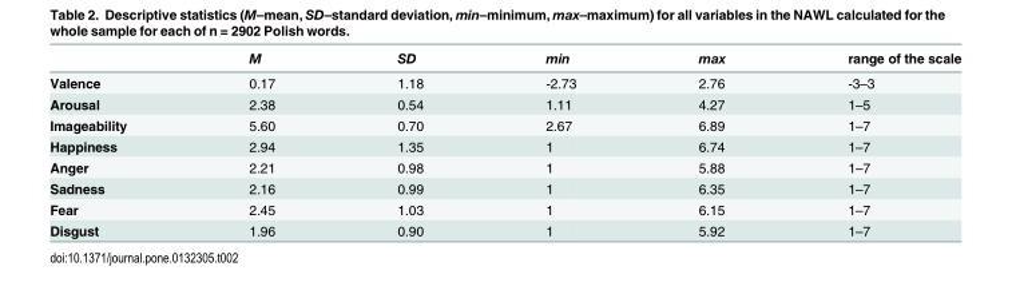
<table><thead><tr><td></td><td>M</td><td>SD</td><td>min</td><td>max</td><td>range of the scale</td></tr></thead><tbody><tr><td>Valence</td><td>0.17</td><td>1.18</td><td>-2.73</td><td>2.76</td><td>-3–3</td></tr><tr><td>Arousal</td><td>2.38</td><td>0.54</td><td>1.11</td><td>4.27</td><td>1–5</td></tr><tr><td>Imageability</td><td>5.60</td><td>0.70</td><td>2.67</td><td>6.89</td><td>1–7</td></tr><tr><td>Happiness</td><td>2.94</td><td>1.35</td><td>1</td><td>6.74</td><td>1–7</td></tr><tr><td>Anger</td><td>2.21</td><td>0.98</td><td>1</td><td>5.88</td><td>1–7</td></tr><tr><td>Sadness</td><td>2.16</td><td>0.99</td><td>1</td><td>6.35</td><td>1–7</td></tr><tr><td>Fear</td><td>2.45</td><td>1.03</td><td>1</td><td>6.15</td><td>1–7</td></tr><tr><td>Disgust</td><td>1.96</td><td>0.90</td><td>1</td><td>5.92</td><td>1–7</td></tr></tbody></table>